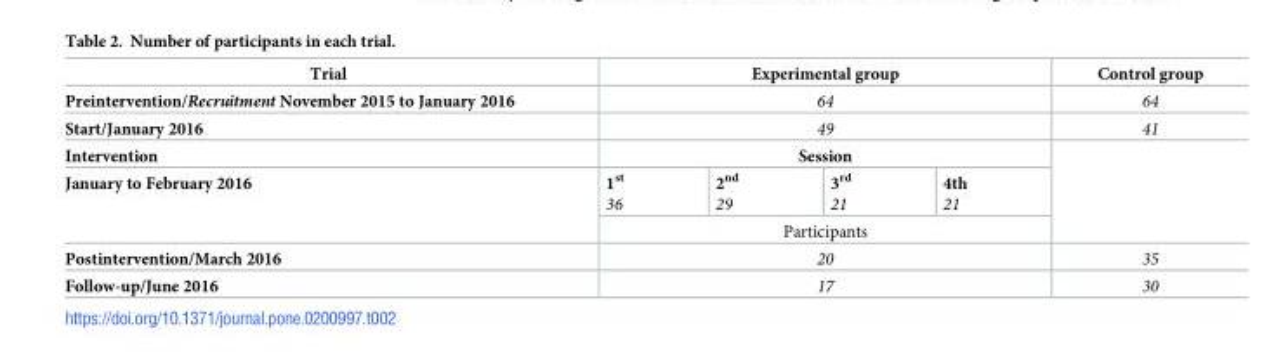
<table><thead><tr><td>Trial</td><td colspan="4">Experimental group</td><td>Control group</td></tr></thead><tbody><tr><td>Preintervention/Recruitment November 2015 to January 2016</td><td colspan="4">64</td><td>64</td></tr><tr><td>Start/January 2016</td><td colspan="4">49</td><td>41</td></tr><tr><td>Intervention</td><td colspan="4">Session</td><td rowspan="3"></td></tr><tr><td rowspan="2">January to February 2016</td><td>1<sup>st</sup> 36</td><td>2<sup>nd</sup> 29</td><td>3<sup>rd</sup> 21</td><td>4th 21</td></tr><tr><td colspan="4">Participants</td></tr><tr><td>Postintervention/March 2016</td><td colspan="4">20</td><td>35</td></tr><tr><td>Follow-up/June 2016</td><td colspan="4">17</td><td>30</td></tr></tbody></table>